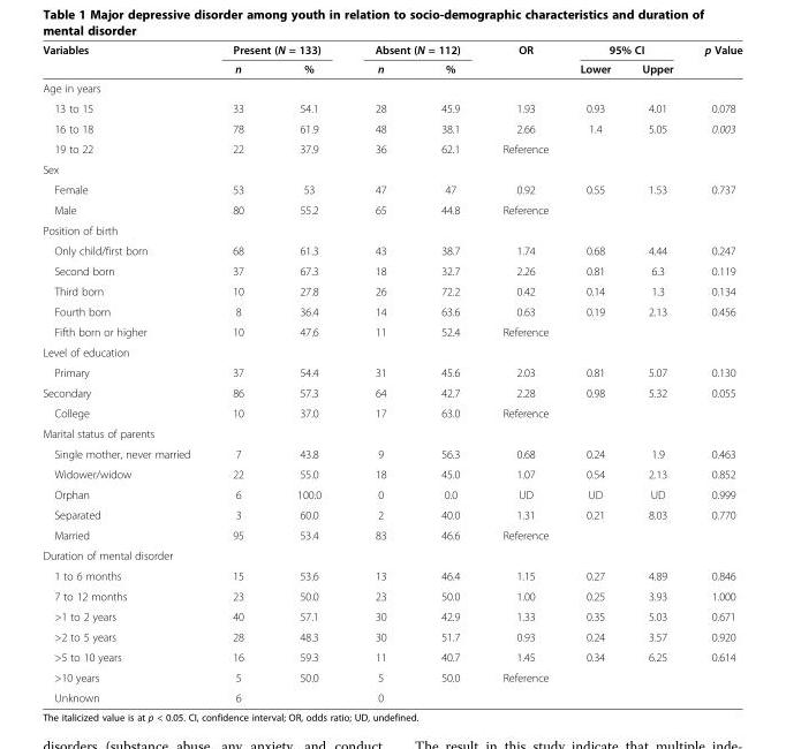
<table><thead><tr><td rowspan="2">Variables</td><td colspan="2">Present (N = 133)</td><td colspan="2">Absent (N = 112)</td><td rowspan="2">OR</td><td colspan="2">95% CI</td><td rowspan="2">p Value</td></tr><tr><td>n</td><td>%</td><td>n</td><td>%</td><td>Lower</td><td>Upper</td></tr></thead><tbody><tr><td colspan="9">Age in years</td></tr><tr><td>13 to 15</td><td>33</td><td>54.1</td><td>28</td><td>45.9</td><td>1.93</td><td>0.93</td><td>4.01</td><td>0.078</td></tr><tr><td>16 to 18</td><td>78</td><td>61.9</td><td>48</td><td>38.1</td><td>2.66</td><td>1.4</td><td>5.05</td><td>0.003</td></tr><tr><td>19 to 22</td><td>22</td><td>37.9</td><td>36</td><td>62.1</td><td>Reference</td><td></td><td></td><td></td></tr><tr><td colspan="9">Sex</td></tr><tr><td>Female</td><td>53</td><td>53</td><td>47</td><td>47</td><td>0.92</td><td>0.55</td><td>1.53</td><td>0.737</td></tr><tr><td>Male</td><td>80</td><td>55.2</td><td>65</td><td>44.8</td><td>Reference</td><td></td><td></td><td></td></tr><tr><td colspan="9">Position of birth</td></tr><tr><td>Only child/first born</td><td>68</td><td>61.3</td><td>43</td><td>38.7</td><td>1.74</td><td>0.68</td><td>4.44</td><td>0.247</td></tr><tr><td>Second born</td><td>37</td><td>67.3</td><td>18</td><td>32.7</td><td>2.26</td><td>0.81</td><td>6.3</td><td>0.119</td></tr><tr><td>Third born</td><td>10</td><td>27.8</td><td>26</td><td>72.2</td><td>0.42</td><td>0.14</td><td>1.3</td><td>0.134</td></tr><tr><td>Fourth born</td><td>8</td><td>36.4</td><td>14</td><td>63.6</td><td>0.63</td><td>0.19</td><td>2.13</td><td>0.456</td></tr><tr><td>Fifth born or higher</td><td>10</td><td>47.6</td><td>11</td><td>52.4</td><td>Reference</td><td></td><td></td><td></td></tr><tr><td colspan="9">Level of education</td></tr><tr><td>Primary</td><td>37</td><td>54.4</td><td>31</td><td>45.6</td><td>2.03</td><td>0.81</td><td>5.07</td><td>0.130</td></tr><tr><td>Secondary</td><td>86</td><td>57.3</td><td>64</td><td>42.7</td><td>2.28</td><td>0.98</td><td>5.32</td><td>0.055</td></tr><tr><td>College</td><td>10</td><td>37.0</td><td>17</td><td>63.0</td><td>Reference</td><td></td><td></td><td></td></tr><tr><td colspan="9">Marital status of parents</td></tr><tr><td>Single mother, never married</td><td>7</td><td>43.8</td><td>9</td><td>56.3</td><td>0.68</td><td>0.24</td><td>1.9</td><td>0.463</td></tr><tr><td>Widower/widow</td><td>22</td><td>55.0</td><td>18</td><td>45.0</td><td>1.07</td><td>0.54</td><td>2.13</td><td>0.852</td></tr><tr><td>Orphan</td><td>6</td><td>100.0</td><td>0</td><td>0.0</td><td>UD</td><td>UD</td><td>UD</td><td>0.999</td></tr><tr><td>Separated</td><td>3</td><td>60.0</td><td>2</td><td>40.0</td><td>1.31</td><td>0.21</td><td>8.03</td><td>0.770</td></tr><tr><td>Married</td><td>95</td><td>53.4</td><td>83</td><td>46.6</td><td>Reference</td><td></td><td></td><td></td></tr><tr><td colspan="9">Duration of mental disorder</td></tr><tr><td>1 to 6 months</td><td>15</td><td>53.6</td><td>13</td><td>46.4</td><td>1.15</td><td>0.27</td><td>4.89</td><td>0.846</td></tr><tr><td>7 to 12 months</td><td>23</td><td>50.0</td><td>23</td><td>50.0</td><td>1.00</td><td>0.25</td><td>3.93</td><td>1.000</td></tr><tr><td>&gt;1 to 2 years</td><td>40</td><td>57.1</td><td>30</td><td>42.9</td><td>1.33</td><td>0.35</td><td>5.03</td><td>0.671</td></tr><tr><td>&gt;2 to 5 years</td><td>28</td><td>48.3</td><td>30</td><td>51.7</td><td>0.93</td><td>0.24</td><td>3.57</td><td>0.920</td></tr><tr><td>&gt;5 to 10 years</td><td>16</td><td>59.3</td><td>11</td><td>40.7</td><td>1.45</td><td>0.34</td><td>6.25</td><td>0.614</td></tr><tr><td>&gt;10 years</td><td>5</td><td>50.0</td><td>5</td><td>50.0</td><td>Reference</td><td></td><td></td><td></td></tr><tr><td>Unknown</td><td>6</td><td></td><td>0</td><td></td><td></td><td></td><td></td><td></td></tr></tbody></table>